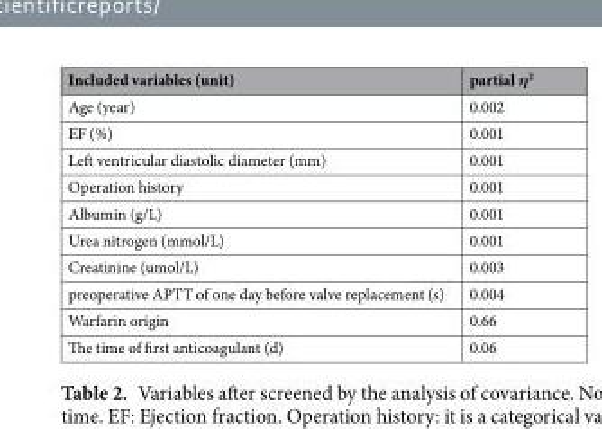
<table><thead><tr><td>Included variables (unit)</td><td>partial η<sup>2</sup></td></tr></thead><tbody><tr><td>Age (year)</td><td>0.002</td></tr><tr><td>EF (%)</td><td>0.001</td></tr><tr><td>Left ventricular diastolic diameter (mm)</td><td>0.001</td></tr><tr><td>Operation history</td><td>0.001</td></tr><tr><td>Albumin (g/L)</td><td>0.001</td></tr><tr><td>Urea nitrogen (mmol/L)</td><td>0.001</td></tr><tr><td>Creatinine (umol/L)</td><td>0.003</td></tr><tr><td>preoperative APTT of one day before valve replacement (s)</td><td>0.004</td></tr><tr><td>Warfarin origin</td><td>0.66</td></tr><tr><td>The time of first anticoagulant (d)</td><td>0.06</td></tr></tbody></table>